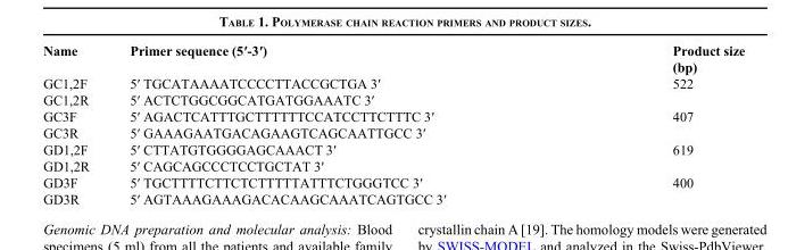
<table><tbody><tr><td>Name</td><td>Primer sequence (5′-3′)</td><td>Product size (bp)</td></tr><tr><td>GC1,2F</td><td>5′ TGCATAAAATCCCCTTACCGCTGA 3′</td><td>522</td></tr><tr><td>GC1,2R</td><td>5′ ACTCTGGCGGCATGATGGAAATC 3′</td><td></td></tr><tr><td>GC3F</td><td>5′ AGACTCATTTGCTTTTTTCCATCCTTCTTTC 3′</td><td>407</td></tr><tr><td>GC3R</td><td>5′ GAAAGAATGACAGAAGTCAGCAATTGCC 3′</td><td></td></tr><tr><td>GD1,2F</td><td>5′ CTTATGTGGGGAGCAAACT 3′</td><td>619</td></tr><tr><td>GD1,2R</td><td>5′ CAGCAGCCCTCCTGCTAT 3′</td><td></td></tr><tr><td>GD3F</td><td>5′ TGCTTTTCTTCTCTTTTTATTTCTGGGTCC 3′</td><td>400</td></tr><tr><td>GD3R</td><td>5′ AGTAAAGAAAGACACAAGCAAATCAGTGCC 3′</td><td></td></tr></tbody></table>